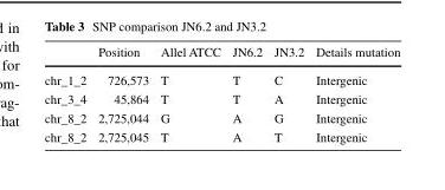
<table><thead><tr><td></td><td>Position</td><td>Allel ATCC</td><td>JN6.2</td><td>JN3.2</td><td>Details mutation</td></tr></thead><tbody><tr><td>chr_1_2</td><td>726,573</td><td>T</td><td>T</td><td>C</td><td>Intergenic</td></tr><tr><td>chr_3_4</td><td>45,864</td><td>T</td><td>T</td><td>A</td><td>Intergenic</td></tr><tr><td>chr_8_2</td><td>2,725,044</td><td>G</td><td>A</td><td>G</td><td>Intergenic</td></tr><tr><td>chr_8_2</td><td>2,725,045</td><td>T</td><td>A</td><td>T</td><td>Intergenic</td></tr></tbody></table>